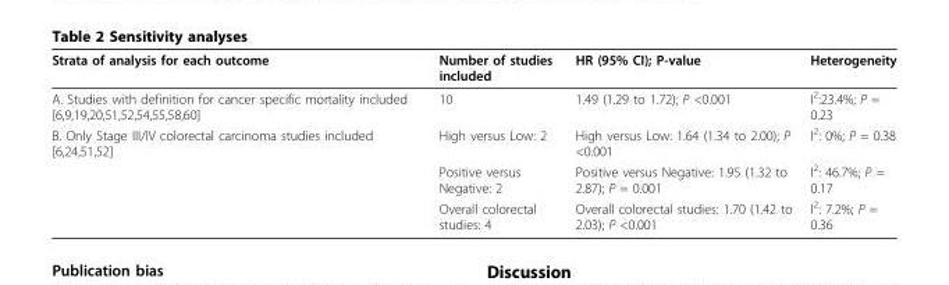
<table><thead><tr><td>Strata of analysis for each outcome</td><td>Number of studies included</td><td>HR (95% CI); P-value</td><td>Heterogeneity</td></tr></thead><tbody><tr><td>A. Studies with definition for cancer specific mortality included [6,9,19,20,51,52,54,55,58,60]</td><td>10</td><td>1.49 (1.29 to 1.72); P &lt;0.001</td><td>I<sup>2</sup>:23.4%; P = 0.23</td></tr><tr><td rowspan="3">B. Only Stage III/IV colorectal carcinoma studies included [6,24,51,52]</td><td>High versus Low: 2</td><td>High versus Low: 1.64 (1.34 to 2.00); P &lt;0.001</td><td>I<sup>2</sup>: 0%; P = 0.38</td></tr><tr><td>Positive versus Negative: 2</td><td>Positive versus Negative: 1.95 (1.32 to 2.87); P = 0.001</td><td>I<sup>2</sup>: 46.7%; P = 0.17</td></tr><tr><td>Overall colorectal studies: 4</td><td>Overall colorectal studies: 1.70 (1.42 to 2.03); P &lt;0.001</td><td>I<sup>2</sup>: 7.2%; P = 0.36</td></tr></tbody></table>